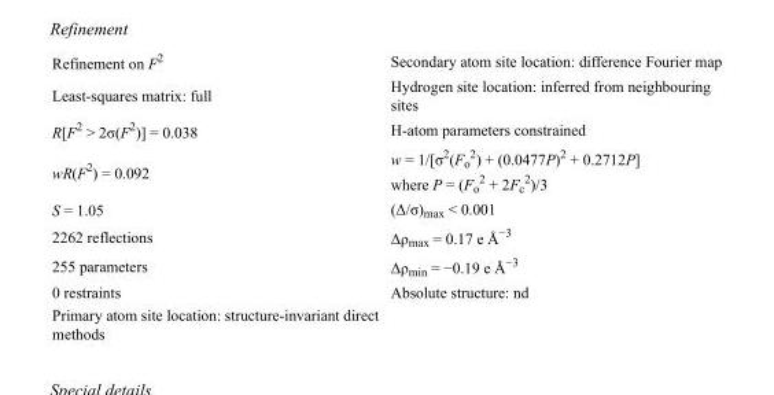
<table><tbody><tr><td>Refinement on F<sup>2</sup></td><td>Secondary atom site location: difference Fourier map</td></tr><tr><td>Least-squares matrix: full</td><td>Hydrogen site location: inferred from neighbouring sites</td></tr><tr><td>R[F<sup>2</sup> &gt; 2σ(F<sup>2</sup>)] = 0.038</td><td>H-atom parameters constrained</td></tr><tr><td>wR(F<sup>2</sup>) = 0.092</td><td>w = 1/[σ<sup>2</sup>(F<sub>o</sub> <sup>2</sup>) + (0.0477P)<sup>2</sup> + 0.2712P] where P = (F<sub>o</sub> <sup>2</sup> + 2F<sub>c</sub> <sup>2</sup>)/3</td></tr><tr><td>S = 1.05</td><td>(Δ/σ)<sub>max</sub> &lt; 0.001</td></tr><tr><td>2262 reflections</td><td>Δρ<sub>max</sub> = 0.17 e Å<sup>−3</sup></td></tr><tr><td>255 parameters</td><td>Δρ<sub>min</sub> = −0.19 e Å<sup>−3</sup></td></tr><tr><td>0 restraints</td><td>Absolute structure: nd</td></tr><tr><td>Primary atom site location: structure-invariant direct methods</td><td></td></tr></tbody></table>